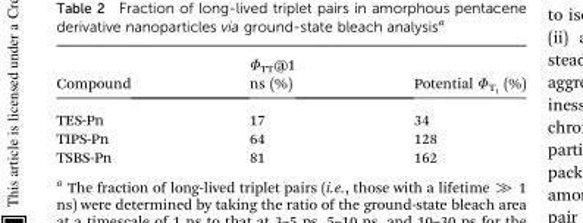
<table><thead><tr><td>Compound</td><td>Φ<sub>TT</sub>@1 ns (%)</td><td>Potential ΦT1 (%)</td></tr></thead><tbody><tr><td>TES-Pn</td><td>17</td><td>34</td></tr><tr><td>TIPS-Pn</td><td>64</td><td>128</td></tr><tr><td>TSBS-Pn</td><td>81</td><td>162</td></tr></tbody></table>